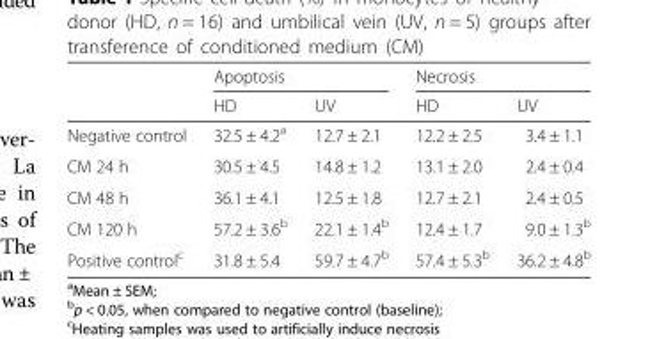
<table><thead><tr><td rowspan="2"></td><td colspan="2">Apoptosis</td><td colspan="2">Necrosis</td></tr><tr><td>HD</td><td>UV</td><td>HD</td><td>UV</td></tr></thead><tbody><tr><td>Negative control</td><td>32.5 ± 4.2<sup>a</sup></td><td>12.7 ± 2.1</td><td>12.2 ± 2.5</td><td>3.4 ± 1.1</td></tr><tr><td>CM 24 h</td><td>30.5 ± 4.5</td><td>14.8 ± 1.2</td><td>13.1 ± 2.0</td><td>2.4 ± 0.4</td></tr><tr><td>CM 48 h</td><td>36.1 ± 4.1</td><td>12.5 ± 1.8</td><td>12.7 ± 2.1</td><td>2.4 ± 0.5</td></tr><tr><td>CM 120 h</td><td>57.2 ± 3.6<sup>b</sup></td><td>22.1 ± 1.4<sup>b</sup></td><td>12.4 ± 1.7</td><td>9.0 ± 1.3<sup>b</sup></td></tr><tr><td>Positive control<sup>c</sup></td><td>31.8 ± 5.4</td><td>59.7 ± 4.7<sup>b</sup></td><td>57.4 ± 5.3<sup>b</sup></td><td>36.2 ± 4.8<sup>b</sup></td></tr></tbody></table>